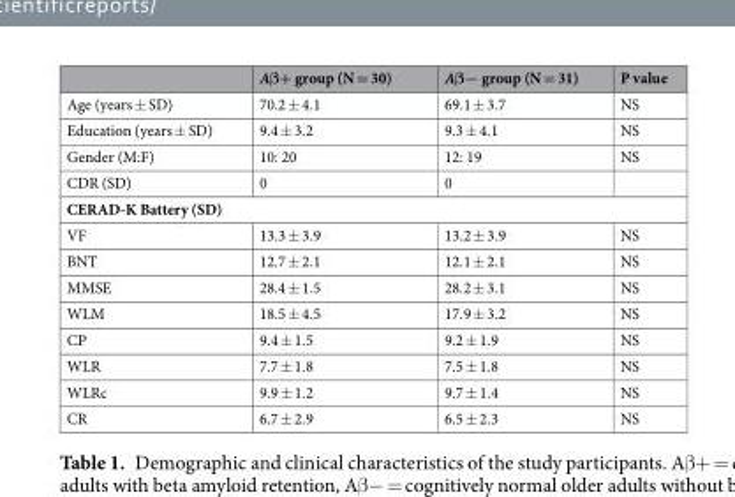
<table><thead><tr><td></td><td>Aβ+ group (N = 30)</td><td>Aβ− group (N = 31)</td><td>P value</td></tr></thead><tbody><tr><td>Age (years ± SD)</td><td>70.2 ± 4.1</td><td>69.1 ± 3.7</td><td>NS</td></tr><tr><td>Education (years ± SD)</td><td>9.4 ± 3.2</td><td>9.3 ± 4.1</td><td>NS</td></tr><tr><td>Gender (M:F)</td><td>10: 20</td><td>12: 19</td><td>NS</td></tr><tr><td>CDR (SD)</td><td>0</td><td>0</td><td></td></tr><tr><td colspan="4">CERAD-K Battery (SD)</td></tr><tr><td>VF</td><td>13.3 ± 3.9</td><td>13.2 ± 3.9</td><td>NS</td></tr><tr><td>BNT</td><td>12.7 ± 2.1</td><td>12.1 ± 2.1</td><td>NS</td></tr><tr><td>MMSE</td><td>28.4 ± 1.5</td><td>28.2 ± 3.1</td><td>NS</td></tr><tr><td>WLM</td><td>18.5 ± 4.5</td><td>17.9 ± 3.2</td><td>NS</td></tr><tr><td>CP</td><td>9.4 ± 1.5</td><td>9.2 ± 1.9</td><td>NS</td></tr><tr><td>WLR</td><td>7.7 ± 1.8</td><td>7.5 ± 1.8</td><td>NS</td></tr><tr><td>WLRc</td><td>9.9 ± 1.2</td><td>9.7 ± 1.4</td><td>NS</td></tr><tr><td>CR</td><td>6.7 ± 2.9</td><td>6.5 ± 2.3</td><td>NS</td></tr></tbody></table>